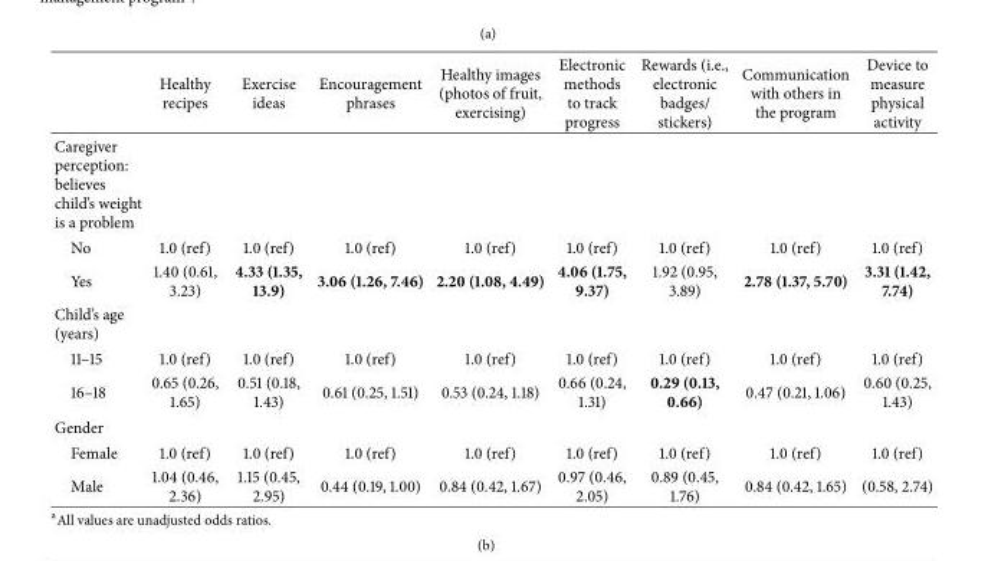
<table><thead><tr><td></td><td>Healthy recipes</td><td>Exercise ideas</td><td>Encouragement phrases</td><td>Healthy images (photos of fruit, exercising)</td><td>Electronic methods to track progress</td><td>Rewards (i.e., electronic badges/ stickers)</td><td>Communication with others in the program</td><td>Device to measure physical activity</td></tr></thead><tbody><tr><td colspan="9">Caregiver perception: believes child’s weight is a problem</td></tr><tr><td>No</td><td>1.0 (ref)</td><td>1.0 (ref)</td><td>1.0 (ref)</td><td>1.0 (ref)</td><td>1.0 (ref)</td><td>1.0 (ref)</td><td>1.0 (ref)</td><td>1.0 (ref)</td></tr><tr><td>Yes</td><td>1.40 (0.61, 3.23)</td><td>4.33 (1.35, 13.9)</td><td>3.06 (1.26, 7.46)</td><td>2.20 (1.08, 4.49)</td><td>4.06 (1.75, 9.37)</td><td>1.92 (0.95, 3.89)</td><td>2.78 (1.37, 5.70)</td><td>3.31 (1.42, 7.74)</td></tr><tr><td colspan="9">Child’s age (years)</td></tr><tr><td>11–15</td><td>1.0 (ref)</td><td>1.0 (ref)</td><td>1.0 (ref)</td><td>1.0 (ref)</td><td>1.0 (ref)</td><td>1.0 (ref)</td><td>1.0 (ref)</td><td>1.0 (ref)</td></tr><tr><td>16–18</td><td>0.65 (0.26, 1.65)</td><td>0.51 (0.18, 1.43)</td><td>0.61 (0.25, 1.51)</td><td>0.53 (0.24, 1.18)</td><td>0.66 (0.24, 1.31)</td><td>0.29 (0.13, 0.66)</td><td>0.47 (0.21, 1.06)</td><td>0.60 (0.25, 1.43)</td></tr><tr><td colspan="9">Gender</td></tr><tr><td>Female</td><td>1.0 (ref)</td><td>1.0 (ref)</td><td>1.0 (ref)</td><td>1.0 (ref)</td><td>1.0 (ref)</td><td>1.0 (ref)</td><td>1.0 (ref)</td><td>1.0 (ref)</td></tr><tr><td>Male</td><td>1.04 (0.46, 2.36)</td><td>1.15 (0.45, 2.95)</td><td>0.44 (0.19, 1.00)</td><td>0.84 (0.42, 1.67)</td><td>0.97 (0.46, 2.05)</td><td>0.89 (0.45, 1.76)</td><td>0.84 (0.42, 1.65)</td><td>(0.58, 2.74)</td></tr></tbody></table>